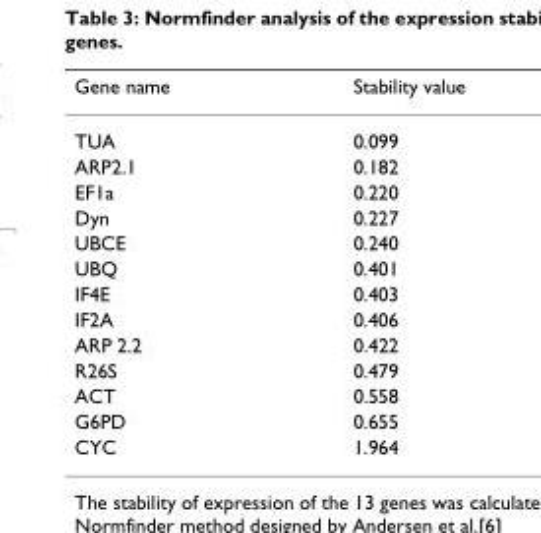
<table><thead><tr><td>Gene name</td><td>Stability value</td></tr></thead><tbody><tr><td>TUA</td><td>0.099</td></tr><tr><td>ARP2.1</td><td>0.182</td></tr><tr><td>EF1a</td><td>0.220</td></tr><tr><td>Dyn</td><td>0.227</td></tr><tr><td>UBCE</td><td>0.240</td></tr><tr><td>UBQ</td><td>0.401</td></tr><tr><td>IF4E</td><td>0.403</td></tr><tr><td>IF2A</td><td>0.406</td></tr><tr><td>ARP 2.2</td><td>0.422</td></tr><tr><td>R26S</td><td>0.479</td></tr><tr><td>ACT</td><td>0.558</td></tr><tr><td>G6PD</td><td>0.655</td></tr><tr><td>CYC</td><td>1.964</td></tr></tbody></table>